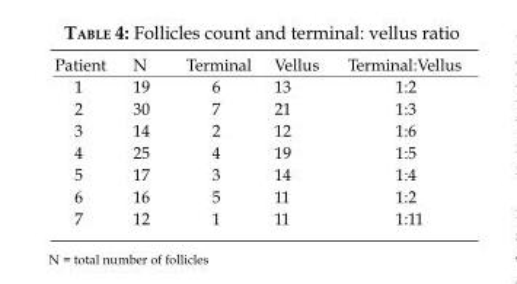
<table><thead><tr><td>Patient</td><td>N</td><td>Terminal</td><td>Vellus</td><td>Terminal:Vellus</td></tr></thead><tbody><tr><td>1</td><td>19</td><td>6</td><td>13</td><td>1:2</td></tr><tr><td>2</td><td>30</td><td>7</td><td>21</td><td>1:3</td></tr><tr><td>3</td><td>14</td><td>2</td><td>12</td><td>1:6</td></tr><tr><td>4</td><td>25</td><td>4</td><td>19</td><td>1:5</td></tr><tr><td>5</td><td>17</td><td>3</td><td>14</td><td>1:4</td></tr><tr><td>6</td><td>16</td><td>5</td><td>11</td><td>1:2</td></tr><tr><td>7</td><td>12</td><td>1</td><td>11</td><td>1:11</td></tr></tbody></table>